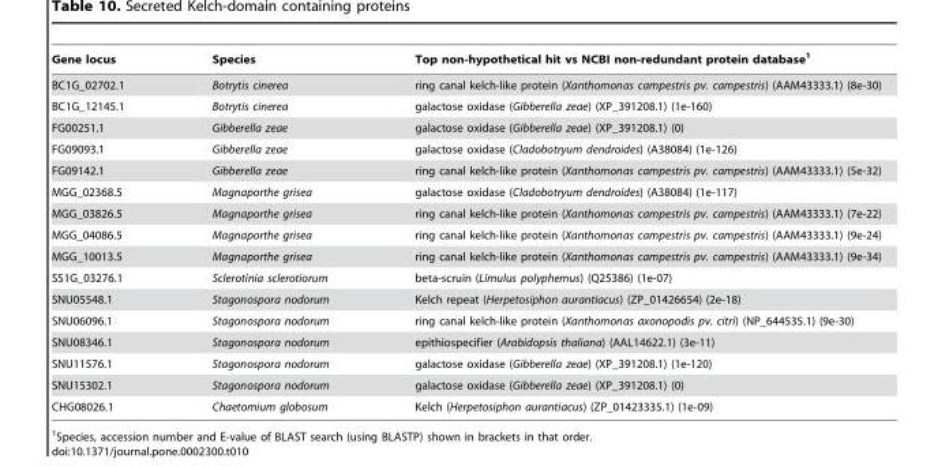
<table><thead><tr><td>Gene locus</td><td>Species</td><td>Top non-hypothetical hit vs NCBI non-redundant protein database<sup>1</sup></td></tr></thead><tbody><tr><td>BC1G_02702.1</td><td>Botrytis cinerea</td><td>ring canal kelch-like protein (Xanthomonas campestris pv. campestris) (AAM43333.1) (8e-30)</td></tr><tr><td>BC1G_12145.1</td><td>Botrytis cinerea</td><td>galactose oxidase (Gibberella zeae) (XP_391208.1) (1e-160)</td></tr><tr><td>FG00251.1</td><td>Gibberella zeae</td><td>galactose oxidase (Gibberella zeae) (XP_391208.1) (0)</td></tr><tr><td>FG09093.1</td><td>Gibberella zeae</td><td>galactose oxidase (Cladobotryum dendroides) (A38084) (1e-126)</td></tr><tr><td>FG09142.1</td><td>Gibberella zeae</td><td>ring canal kelch-like protein (Xanthomonas campestris pv. campestris) (AAM43333.1) (5e-32)</td></tr><tr><td>MGG_02368.5</td><td>Magnaporthe grisea</td><td>galactose oxidase (Cladobotryum dendroides) (A38084) (1e-117)</td></tr><tr><td>MGG_03826.5</td><td>Magnaporthe grisea</td><td>ring canal kelch-like protein (Xanthomonas campestris pv. campestris) (AAM43333.1) (7e-22)</td></tr><tr><td>MGG_04086.5</td><td>Magnaporthe grisea</td><td>ring canal kelch-like protein (Xanthomonas campestris pv. campestris) (AAM43333.1) (9e-24)</td></tr><tr><td>MGG_10013.5</td><td>Magnaporthe grisea</td><td>ring canal kelch-like protein (Xanthomonas campestris pv. campestris) (AAM43333.1) (9e-34)</td></tr><tr><td>SS1G_03276.1</td><td>Sclerotinia sclerotiorum</td><td>beta-scruin (Limulus polyphemus) (Q25386) (1e-07)</td></tr><tr><td>SNU05548.1</td><td>Stagonospora nodorum</td><td>Kelch repeat (Herpetosiphon aurantiacus) (ZP_01426654) (2e-18)</td></tr><tr><td>SNU06096.1</td><td>Stagonospora nodorum</td><td>ring canal kelch-like protein (Xanthomonas axonopodis pv. citri) (NP_644535.1) (9e-30)</td></tr><tr><td>SNU08346.1</td><td>Stagonospora nodorum</td><td>epithiospecifier (Arabidopsis thaliana) (AAL14622.1) (3e-11)</td></tr><tr><td>SNU11576.1</td><td>Stagonospora nodorum</td><td>galactose oxidase (Gibberella zeae) (XP_391208.1) (1e-120)</td></tr><tr><td>SNU15302.1</td><td>Stagonospora nodorum</td><td>galactose oxidase (Gibberella zeae) (XP_391208.1) (0)</td></tr><tr><td>CHG08026.1</td><td>Chaetomium globosum</td><td>Kelch (Herpetosiphon aurantiacus) (ZP_01423335.1) (1e-09)</td></tr></tbody></table>